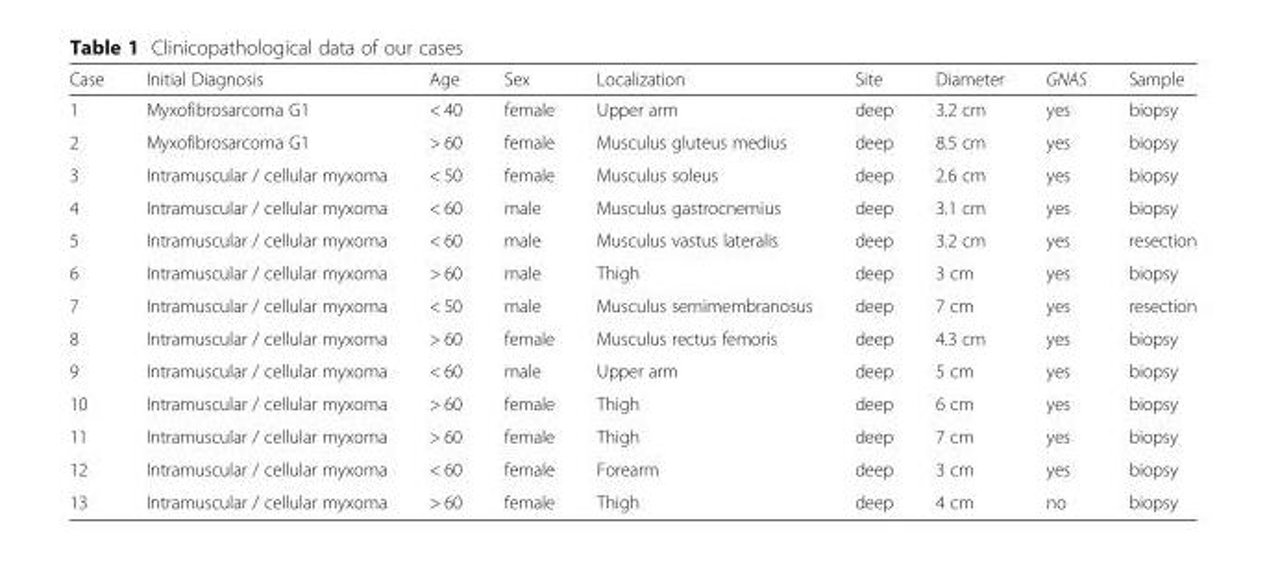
<table><thead><tr><td>Case</td><td>Initial Diagnosis</td><td>Age</td><td>Sex</td><td>Localization</td><td>Site</td><td>Diameter</td><td>GNAS</td><td>Sample</td></tr></thead><tbody><tr><td>1</td><td>Myxofibrosarcoma G1</td><td>&lt; 40</td><td>female</td><td>Upper arm</td><td>deep</td><td>3.2 cm</td><td>yes</td><td>biopsy</td></tr><tr><td>2</td><td>Myxofibrosarcoma G1</td><td>&gt; 60</td><td>female</td><td>Musculus gluteus medius</td><td>deep</td><td>8.5 cm</td><td>yes</td><td>biopsy</td></tr><tr><td>3</td><td>Intramuscular / cellular myxoma</td><td>&lt; 50</td><td>female</td><td>Musculus soleus</td><td>deep</td><td>2.6 cm</td><td>yes</td><td>biopsy</td></tr><tr><td>4</td><td>Intramuscular / cellular myxoma</td><td>&lt; 60</td><td>male</td><td>Musculus gastrocnemius</td><td>deep</td><td>3.1 cm</td><td>yes</td><td>biopsy</td></tr><tr><td>5</td><td>Intramuscular / cellular myxoma</td><td>&lt; 60</td><td>male</td><td>Musculus vastus lateralis</td><td>deep</td><td>3.2 cm</td><td>yes</td><td>resection</td></tr><tr><td>6</td><td>Intramuscular / cellular myxoma</td><td>&gt; 60</td><td>male</td><td>Thigh</td><td>deep</td><td>3 cm</td><td>yes</td><td>biopsy</td></tr><tr><td>7</td><td>Intramuscular / cellular myxoma</td><td>&lt; 50</td><td>male</td><td>Musculus semimembranosus</td><td>deep</td><td>7 cm</td><td>yes</td><td>resection</td></tr><tr><td>8</td><td>Intramuscular / cellular myxoma</td><td>&gt; 60</td><td>female</td><td>Musculus rectus femoris</td><td>deep</td><td>4.3 cm</td><td>yes</td><td>biopsy</td></tr><tr><td>9</td><td>Intramuscular / cellular myxoma</td><td>&lt; 60</td><td>male</td><td>Upper arm</td><td>deep</td><td>5 cm</td><td>yes</td><td>biopsy</td></tr><tr><td>10</td><td>Intramuscular / cellular myxoma</td><td>&gt; 60</td><td>female</td><td>Thigh</td><td>deep</td><td>6 cm</td><td>yes</td><td>biopsy</td></tr><tr><td>11</td><td>Intramuscular / cellular myxoma</td><td>&gt; 60</td><td>female</td><td>Thigh</td><td>deep</td><td>7 cm</td><td>yes</td><td>biopsy</td></tr><tr><td>12</td><td>Intramuscular / cellular myxoma</td><td>&lt; 60</td><td>female</td><td>Forearm</td><td>deep</td><td>3 cm</td><td>yes</td><td>biopsy</td></tr><tr><td>13</td><td>Intramuscular / cellular myxoma</td><td>&gt; 60</td><td>female</td><td>Thigh</td><td>deep</td><td>4 cm</td><td>no</td><td>biopsy</td></tr></tbody></table>